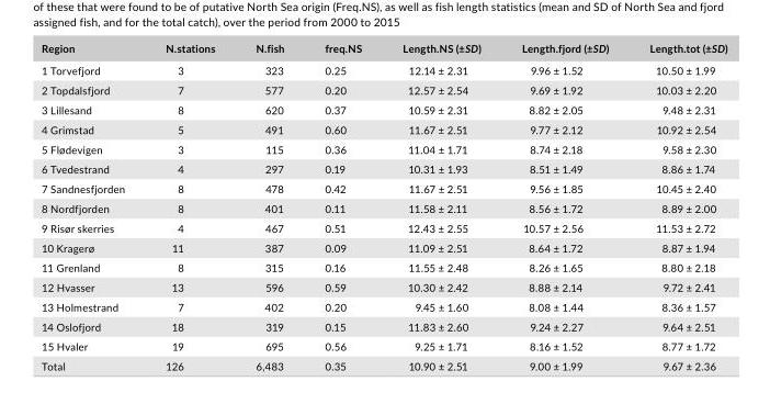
<table><thead><tr><td>Region</td><td>N.stations</td><td>N.fish</td><td>freq.NS</td><td>Length.NS (±SD)</td><td>Length.fjord (±SD)</td><td>Length.tot (±SD)</td></tr></thead><tbody><tr><td>1 Torvefjord</td><td>3</td><td>323</td><td>0.25</td><td>12.14 ± 2.31</td><td>9.96 ± 1.52</td><td>10.50 ± 1.99</td></tr><tr><td>2 Topdalsfjord</td><td>7</td><td>577</td><td>0.20</td><td>12.57 ± 2.54</td><td>9.69 ± 1.92</td><td>10.03 ± 2.20</td></tr><tr><td>3 Lillesand</td><td>8</td><td>620</td><td>0.37</td><td>10.59 ± 2.31</td><td>8.82 ± 2.05</td><td>9.48 ± 2.31</td></tr><tr><td>4 Grimstad</td><td>5</td><td>491</td><td>0.60</td><td>11.67 ± 2.51</td><td>9.77 ± 2.12</td><td>10.92 ± 2.54</td></tr><tr><td>5 Flødevigen</td><td>3</td><td>115</td><td>0.36</td><td>11.04 ± 1.71</td><td>8.74 ± 2.18</td><td>9.58 ± 2.30</td></tr><tr><td>6 Tvedestrand</td><td>4</td><td>297</td><td>0.19</td><td>10.31 ± 1.93</td><td>8.51 ± 1.49</td><td>8.86 ± 1.74</td></tr><tr><td>7 Sandnesfjorden</td><td>8</td><td>478</td><td>0.42</td><td>11.67 ± 2.51</td><td>9.56 ± 1.85</td><td>10.45 ± 2.40</td></tr><tr><td>8 Nordfjorden</td><td>8</td><td>401</td><td>0.11</td><td>11.58 ± 2.11</td><td>8.56 ± 1.72</td><td>8.89 ± 2.00</td></tr><tr><td>9 Risør skerries</td><td>4</td><td>467</td><td>0.51</td><td>12.43 ± 2.55</td><td>10.57 ± 2.56</td><td>11.53 ± 2.72</td></tr><tr><td>10 Kragerø</td><td>11</td><td>387</td><td>0.09</td><td>11.09 ± 2.51</td><td>8.64 ± 1.72</td><td>8.87 ± 1.94</td></tr><tr><td>11 Grenland</td><td>8</td><td>315</td><td>0.16</td><td>11.55 ± 2.48</td><td>8.26 ± 1.65</td><td>8.80 ± 2.18</td></tr><tr><td>12 Hvasser</td><td>13</td><td>596</td><td>0.59</td><td>10.30 ± 2.42</td><td>8.88 ± 2.14</td><td>9.72 ± 2.41</td></tr><tr><td>13 Holmestrand</td><td>7</td><td>402</td><td>0.20</td><td>9.45 ± 1.60</td><td>8.08 ± 1.44</td><td>8.36 ± 1.57</td></tr><tr><td>14 Oslofjord</td><td>18</td><td>319</td><td>0.15</td><td>11.83 ± 2.60</td><td>9.24 ± 2.27</td><td>9.64 ± 2.51</td></tr><tr><td>15 Hvaler</td><td>19</td><td>695</td><td>0.56</td><td>9.25 ± 1.71</td><td>8.16 ± 1.52</td><td>8.77 ± 1.72</td></tr><tr><td>Total</td><td>126</td><td>6,483</td><td>0.35</td><td>10.90 ± 2.51</td><td>9.00 ± 1.99</td><td>9.67 ± 2.36</td></tr></tbody></table>